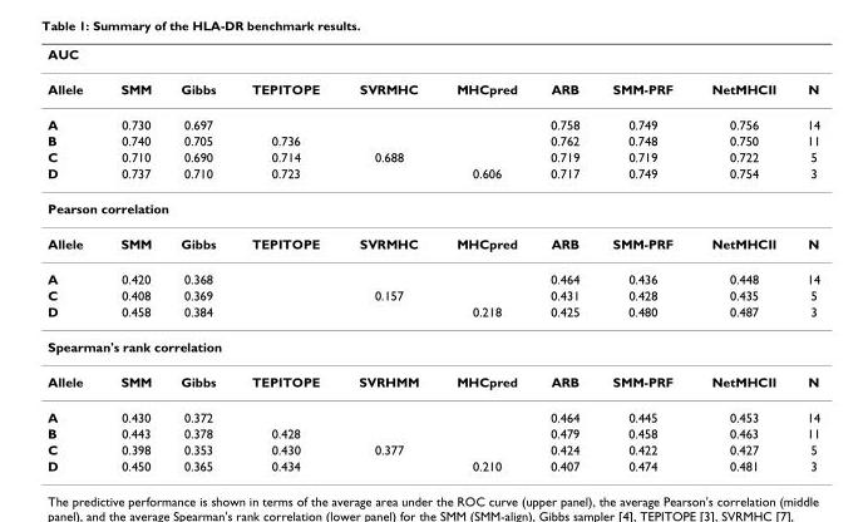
<table><thead><tr><td colspan="10">AUC</td></tr><tr><td>Allele</td><td>SMM</td><td>Gibbs</td><td>TEPITOPE</td><td>SVRMHC</td><td>MHCpred</td><td>ARB</td><td>SMM-PRF</td><td>NetMHCII</td><td>N</td></tr></thead><tbody><tr><td>A</td><td>0.730</td><td>0.697</td><td></td><td></td><td></td><td>0.758</td><td>0.749</td><td>0.756</td><td>14</td></tr><tr><td>B</td><td>0.740</td><td>0.705</td><td>0.736</td><td></td><td></td><td>0.762</td><td>0.748</td><td>0.750</td><td>11</td></tr><tr><td>C</td><td>0.710</td><td>0.690</td><td>0.714</td><td>0.688</td><td></td><td>0.719</td><td>0.719</td><td>0.722</td><td>5</td></tr><tr><td>D</td><td>0.737</td><td>0.710</td><td>0.723</td><td></td><td>0.606</td><td>0.717</td><td>0.749</td><td>0.754</td><td>3</td></tr><tr><td colspan="10">Pearson correlation</td></tr><tr><td>Allele</td><td>SMM</td><td>Gibbs</td><td>TEPITOPE</td><td>SVRMHC</td><td>MHCpred</td><td>ARB</td><td>SMM-PRF</td><td>NetMHCII</td><td>N</td></tr><tr><td>A</td><td>0.420</td><td>0.368</td><td></td><td></td><td></td><td>0.464</td><td>0.436</td><td>0.448</td><td>14</td></tr><tr><td>C</td><td>0.408</td><td>0.369</td><td></td><td>0.157</td><td></td><td>0.431</td><td>0.428</td><td>0.435</td><td>5</td></tr><tr><td>D</td><td>0.458</td><td>0.384</td><td></td><td></td><td>0.218</td><td>0.425</td><td>0.480</td><td>0.487</td><td>3</td></tr><tr><td colspan="10">Spearman&#x27;s rank correlation</td></tr><tr><td>Allele</td><td>SMM</td><td>Gibbs</td><td>TEPITOPE</td><td>SVRHMM</td><td>MHCpred</td><td>ARB</td><td>SMM-PRF</td><td>NetMHCII</td><td>N</td></tr><tr><td>A</td><td>0.430</td><td>0.372</td><td></td><td></td><td></td><td>0.464</td><td>0.445</td><td>0.453</td><td>14</td></tr><tr><td>B</td><td>0.443</td><td>0.378</td><td>0.428</td><td></td><td></td><td>0.479</td><td>0.458</td><td>0.463</td><td>11</td></tr><tr><td>C</td><td>0.398</td><td>0.353</td><td>0.430</td><td>0.377</td><td></td><td>0.424</td><td>0.422</td><td>0.427</td><td>5</td></tr><tr><td>D</td><td>0.450</td><td>0.365</td><td>0.434</td><td></td><td>0.210</td><td>0.407</td><td>0.474</td><td>0.481</td><td>3</td></tr></tbody></table>